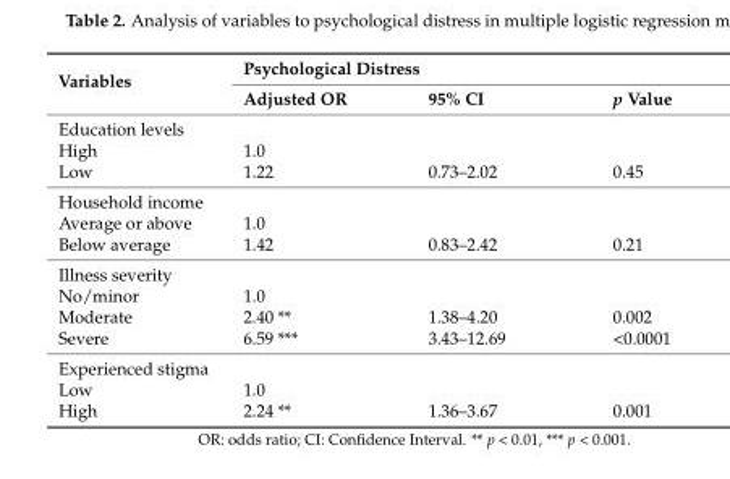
<table><thead><tr><td rowspan="2">Variables</td><td colspan="3">Psychological Distress</td></tr><tr><td>Adjusted OR</td><td>95% CI</td><td>p Value</td></tr></thead><tbody><tr><td colspan="4">Education levels</td></tr><tr><td>High</td><td>1.0</td><td></td><td></td></tr><tr><td>Low</td><td>1.22</td><td>0.73–2.02</td><td>0.45</td></tr><tr><td colspan="4">Household income</td></tr><tr><td>Average or above</td><td>1.0</td><td></td><td></td></tr><tr><td>Below average</td><td>1.42</td><td>0.83–2.42</td><td>0.21</td></tr><tr><td colspan="4">Illness severity</td></tr><tr><td>No/minor</td><td>1.0</td><td></td><td></td></tr><tr><td>Moderate</td><td>2.40 **</td><td>1.38–4.20</td><td>0.002</td></tr><tr><td>Severe</td><td>6.59 ***</td><td>3.43–12.69</td><td>&lt;0.0001</td></tr><tr><td colspan="4">Experienced stigma</td></tr><tr><td>Low</td><td>1.0</td><td></td><td></td></tr><tr><td>High</td><td>2.24 **</td><td>1.36–3.67</td><td>0.001</td></tr></tbody></table>